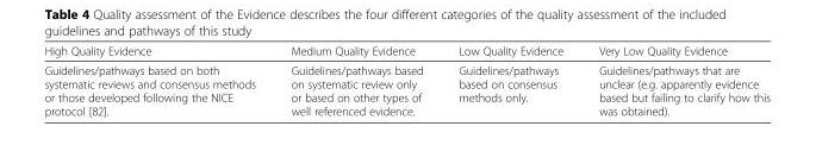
<table><thead><tr><td>High Quality Evidence</td><td>Medium Quality Evidence</td><td>Low Quality Evidence</td><td>Very Low Quality Evidence</td></tr></thead><tbody><tr><td>Guidelines/pathways based on both systematic reviews and consensus methods or those developed following the NICE protocol [82].</td><td>Guidelines/pathways based on systematic review only or based on other types of well referenced evidence.</td><td>Guidelines/pathways based on consensus methods only.</td><td>Guidelines/pathways that are unclear (e.g. apparently evidence based but failing to clarify how this was obtained).</td></tr></tbody></table>